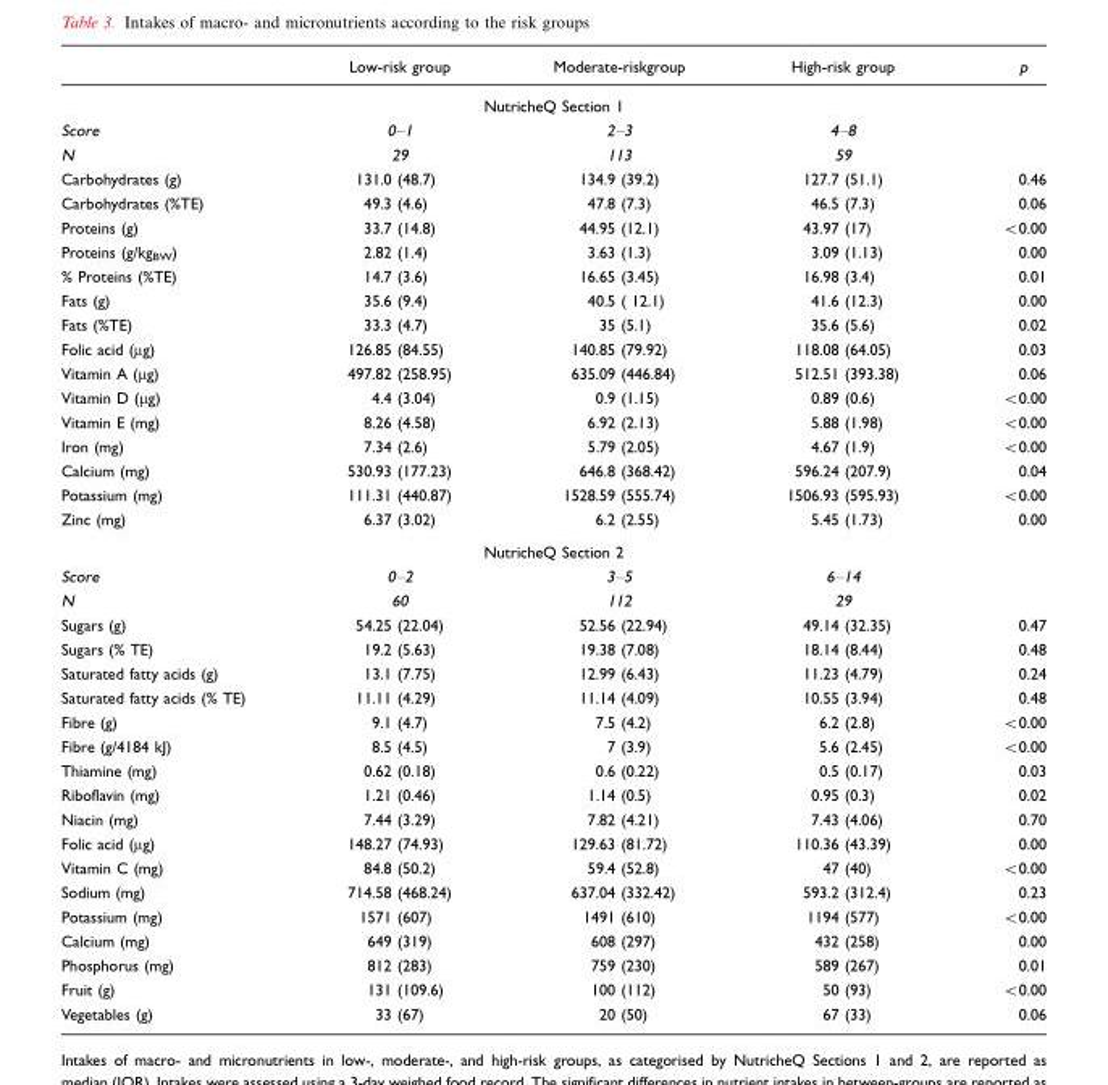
<table><thead><tr><td></td><td>Low-risk group</td><td>Moderate-riskgroup</td><td>High-risk group</td><td>p</td></tr></thead><tbody><tr><td colspan="5">NutricheQ Section 1</td></tr><tr><td>Score</td><td>0–1</td><td>2–3</td><td>4–8</td><td></td></tr><tr><td>N</td><td>29</td><td>113</td><td>59</td><td></td></tr><tr><td>Carbohydrates (g)</td><td>131.0 (48.7)</td><td>134.9 (39.2)</td><td>127.7 (51.1)</td><td>0.46</td></tr><tr><td>Carbohydrates (%TE)</td><td>49.3 (4.6)</td><td>47.8 (7.3)</td><td>46.5 (7.3)</td><td>0.06</td></tr><tr><td>Proteins (g)</td><td>33.7 (14.8)</td><td>44.95 (12.1)</td><td>43.97 (17)</td><td>&lt;0.00</td></tr><tr><td>Proteins (g/kg<sub>BW</sub>)</td><td>2.82 (1.4)</td><td>3.63 (1.3)</td><td>3.09 (1.13)</td><td>0.00</td></tr><tr><td>% Proteins (%TE)</td><td>14.7 (3.6)</td><td>16.65 (3.45)</td><td>16.98 (3.4)</td><td>0.01</td></tr><tr><td>Fats (g)</td><td>35.6 (9.4)</td><td>40.5 ( 12.1)</td><td>41.6 (12.3)</td><td>0.00</td></tr><tr><td>Fats (%TE)</td><td>33.3 (4.7)</td><td>35 (5.1)</td><td>35.6 (5.6)</td><td>0.02</td></tr><tr><td>Folic acid (µg)</td><td>126.85 (84.55)</td><td>140.85 (79.92)</td><td>118.08 (64.05)</td><td>0.03</td></tr><tr><td>Vitamin A (µg)</td><td>497.82 (258.95)</td><td>635.09 (446.84)</td><td>512.51 (393.38)</td><td>0.06</td></tr><tr><td>Vitamin D (µg)</td><td>4.4 (3.04)</td><td>0.9 (1.15)</td><td>0.89 (0.6)</td><td>&lt;0.00</td></tr><tr><td>Vitamin E (mg)</td><td>8.26 (4.58)</td><td>6.92 (2.13)</td><td>5.88 (1.98)</td><td>&lt;0.00</td></tr><tr><td>Iron (mg)</td><td>7.34 (2.6)</td><td>5.79 (2.05)</td><td>4.67 (1.9)</td><td>&lt;0.00</td></tr><tr><td>Calcium (mg)</td><td>530.93 (177.23)</td><td>646.8 (368.42)</td><td>596.24 (207.9)</td><td>0.04</td></tr><tr><td>Potassium (mg)</td><td>111.31 (440.87)</td><td>1528.59 (555.74)</td><td>1506.93 (595.93)</td><td>&lt;0.00</td></tr><tr><td>Zinc (mg)</td><td>6.37 (3.02)</td><td>6.2 (2.55)</td><td>5.45 (1.73)</td><td>0.00</td></tr><tr><td colspan="5">NutricheQ Section 2</td></tr><tr><td>Score</td><td>0–2</td><td>3–5</td><td>6–14</td><td></td></tr><tr><td>N</td><td>60</td><td>112</td><td>29</td><td></td></tr><tr><td>Sugars (g)</td><td>54.25 (22.04)</td><td>52.56 (22.94)</td><td>49.14 (32.35)</td><td>0.47</td></tr><tr><td>Sugars (% TE)</td><td>19.2 (5.63)</td><td>19.38 (7.08)</td><td>18.14 (8.44)</td><td>0.48</td></tr><tr><td>Saturated fatty acids (g)</td><td>13.1 (7.75)</td><td>12.99 (6.43)</td><td>11.23 (4.79)</td><td>0.24</td></tr><tr><td>Saturated fatty acids (% TE)</td><td>11.11 (4.29)</td><td>11.14 (4.09)</td><td>10.55 (3.94)</td><td>0.48</td></tr><tr><td>Fibre (g)</td><td>9.1 (4.7)</td><td>7.5 (4.2)</td><td>6.2 (2.8)</td><td>&lt;0.00</td></tr><tr><td>Fibre (g/4184 kJ)</td><td>8.5 (4.5)</td><td>7 (3.9)</td><td>5.6 (2.45)</td><td>&lt;0.00</td></tr><tr><td>Thiamine (mg)</td><td>0.62 (0.18)</td><td>0.6 (0.22)</td><td>0.5 (0.17)</td><td>0.03</td></tr><tr><td>Riboflavin (mg)</td><td>1.21 (0.46)</td><td>1.14 (0.5)</td><td>0.95 (0.3)</td><td>0.02</td></tr><tr><td>Niacin (mg)</td><td>7.44 (3.29)</td><td>7.82 (4.21)</td><td>7.43 (4.06)</td><td>0.70</td></tr><tr><td>Folic acid (µg)</td><td>148.27 (74.93)</td><td>129.63 (81.72)</td><td>110.36 (43.39)</td><td>0.00</td></tr><tr><td>Vitamin C (mg)</td><td>84.8 (50.2)</td><td>59.4 (52.8)</td><td>47 (40)</td><td>&lt;0.00</td></tr><tr><td>Sodium (mg)</td><td>714.58 (468.24)</td><td>637.04 (332.42)</td><td>593.2 (312.4)</td><td>0.23</td></tr><tr><td>Potassium (mg)</td><td>1571 (607)</td><td>1491 (610)</td><td>1194 (577)</td><td>&lt;0.00</td></tr><tr><td>Calcium (mg)</td><td>649 (319)</td><td>608 (297)</td><td>432 (258)</td><td>0.00</td></tr><tr><td>Phosphorus (mg)</td><td>812 (283)</td><td>759 (230)</td><td>589 (267)</td><td>0.01</td></tr><tr><td>Fruit (g)</td><td>131 (109.6)</td><td>100 (112)</td><td>50 (93)</td><td>&lt;0.00</td></tr><tr><td>Vegetables (g)</td><td>33 (67)</td><td>20 (50)</td><td>67 (33)</td><td>0.06</td></tr></tbody></table>